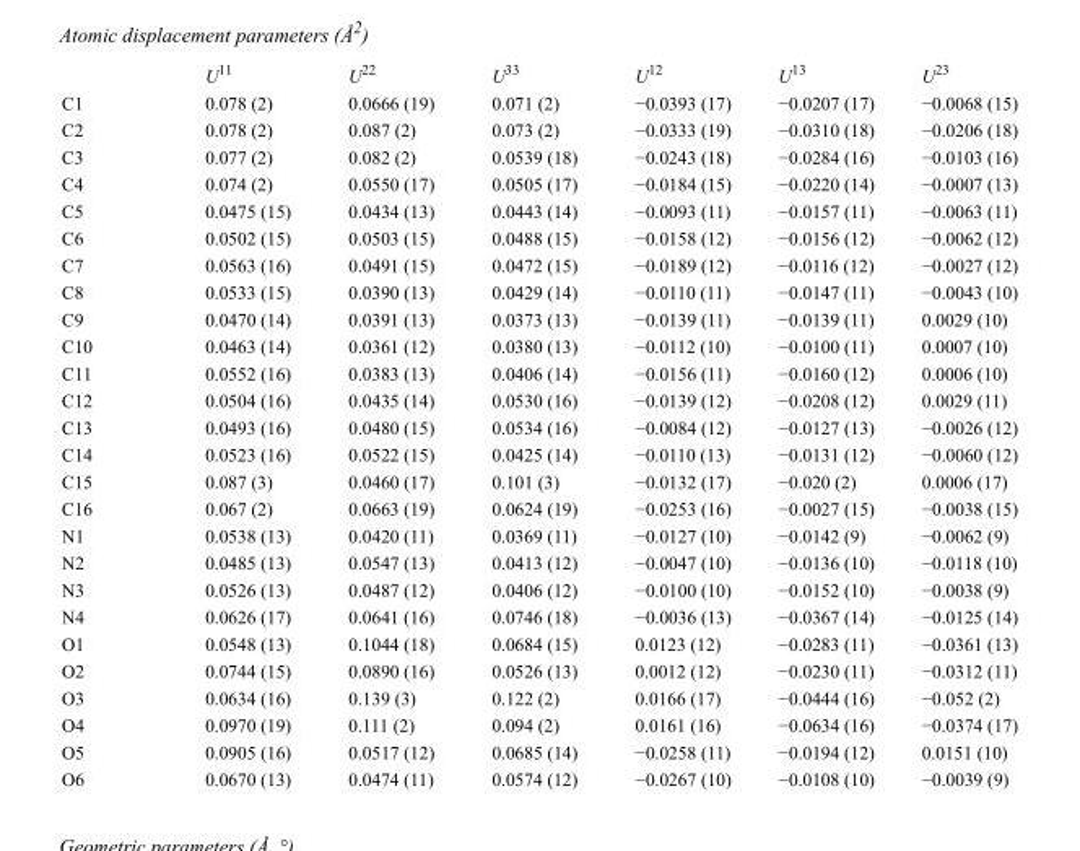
<table><thead><tr><td></td><td>U<sup>11</sup></td><td>U<sup>22</sup></td><td>U<sup>33</sup></td><td>U<sup>12</sup></td><td>U<sup>13</sup></td><td>U<sup>23</sup></td></tr></thead><tbody><tr><td>C1</td><td>0.078 (2)</td><td>0.0666 (19)</td><td>0.071 (2)</td><td>−0.0393 (17)</td><td>−0.0207 (17)</td><td>−0.0068 (15)</td></tr><tr><td>C2</td><td>0.078 (2)</td><td>0.087 (2)</td><td>0.073 (2)</td><td>−0.0333 (19)</td><td>−0.0310 (18)</td><td>−0.0206 (18)</td></tr><tr><td>C3</td><td>0.077 (2)</td><td>0.082 (2)</td><td>0.0539 (18)</td><td>−0.0243 (18)</td><td>−0.0284 (16)</td><td>−0.0103 (16)</td></tr><tr><td>C4</td><td>0.074 (2)</td><td>0.0550 (17)</td><td>0.0505 (17)</td><td>−0.0184 (15)</td><td>−0.0220 (14)</td><td>−0.0007 (13)</td></tr><tr><td>C5</td><td>0.0475 (15)</td><td>0.0434 (13)</td><td>0.0443 (14)</td><td>−0.0093 (11)</td><td>−0.0157 (11)</td><td>−0.0063 (11)</td></tr><tr><td>C6</td><td>0.0502 (15)</td><td>0.0503 (15)</td><td>0.0488 (15)</td><td>−0.0158 (12)</td><td>−0.0156 (12)</td><td>−0.0062 (12)</td></tr><tr><td>C7</td><td>0.0563 (16)</td><td>0.0491 (15)</td><td>0.0472 (15)</td><td>−0.0189 (12)</td><td>−0.0116 (12)</td><td>−0.0027 (12)</td></tr><tr><td>C8</td><td>0.0533 (15)</td><td>0.0390 (13)</td><td>0.0429 (14)</td><td>−0.0110 (11)</td><td>−0.0147 (11)</td><td>−0.0043 (10)</td></tr><tr><td>C9</td><td>0.0470 (14)</td><td>0.0391 (13)</td><td>0.0373 (13)</td><td>−0.0139 (11)</td><td>−0.0139 (11)</td><td>0.0029 (10)</td></tr><tr><td>C10</td><td>0.0463 (14)</td><td>0.0361 (12)</td><td>0.0380 (13)</td><td>−0.0112 (10)</td><td>−0.0100 (11)</td><td>0.0007 (10)</td></tr><tr><td>C11</td><td>0.0552 (16)</td><td>0.0383 (13)</td><td>0.0406 (14)</td><td>−0.0156 (11)</td><td>−0.0160 (12)</td><td>0.0006 (10)</td></tr><tr><td>C12</td><td>0.0504 (16)</td><td>0.0435 (14)</td><td>0.0530 (16)</td><td>−0.0139 (12)</td><td>−0.0208 (12)</td><td>0.0029 (11)</td></tr><tr><td>C13</td><td>0.0493 (16)</td><td>0.0480 (15)</td><td>0.0534 (16)</td><td>−0.0084 (12)</td><td>−0.0127 (13)</td><td>−0.0026 (12)</td></tr><tr><td>C14</td><td>0.0523 (16)</td><td>0.0522 (15)</td><td>0.0425 (14)</td><td>−0.0110 (13)</td><td>−0.0131 (12)</td><td>−0.0060 (12)</td></tr><tr><td>C15</td><td>0.087 (3)</td><td>0.0460 (17)</td><td>0.101 (3)</td><td>−0.0132 (17)</td><td>−0.020 (2)</td><td>0.0006 (17)</td></tr><tr><td>C16</td><td>0.067 (2)</td><td>0.0663 (19)</td><td>0.0624 (19)</td><td>−0.0253 (16)</td><td>−0.0027 (15)</td><td>−0.0038 (15)</td></tr><tr><td>N1</td><td>0.0538 (13)</td><td>0.0420 (11)</td><td>0.0369 (11)</td><td>−0.0127 (10)</td><td>−0.0142 (9)</td><td>−0.0062 (9)</td></tr><tr><td>N2</td><td>0.0485 (13)</td><td>0.0547 (13)</td><td>0.0413 (12)</td><td>−0.0047 (10)</td><td>−0.0136 (10)</td><td>−0.0118 (10)</td></tr><tr><td>N3</td><td>0.0526 (13)</td><td>0.0487 (12)</td><td>0.0406 (12)</td><td>−0.0100 (10)</td><td>−0.0152 (10)</td><td>−0.0038 (9)</td></tr><tr><td>N4</td><td>0.0626 (17)</td><td>0.0641 (16)</td><td>0.0746 (18)</td><td>−0.0036 (13)</td><td>−0.0367 (14)</td><td>−0.0125 (14)</td></tr><tr><td>O1</td><td>0.0548 (13)</td><td>0.1044 (18)</td><td>0.0684 (15)</td><td>0.0123 (12)</td><td>−0.0283 (11)</td><td>−0.0361 (13)</td></tr><tr><td>O2</td><td>0.0744 (15)</td><td>0.0890 (16)</td><td>0.0526 (13)</td><td>0.0012 (12)</td><td>−0.0230 (11)</td><td>−0.0312 (11)</td></tr><tr><td>O3</td><td>0.0634 (16)</td><td>0.139 (3)</td><td>0.122 (2)</td><td>0.0166 (17)</td><td>−0.0444 (16)</td><td>−0.052 (2)</td></tr><tr><td>O4</td><td>0.0970 (19)</td><td>0.111 (2)</td><td>0.094 (2)</td><td>0.0161 (16)</td><td>−0.0634 (16)</td><td>−0.0374 (17)</td></tr><tr><td>O5</td><td>0.0905 (16)</td><td>0.0517 (12)</td><td>0.0685 (14)</td><td>−0.0258 (11)</td><td>−0.0194 (12)</td><td>0.0151 (10)</td></tr><tr><td>O6</td><td>0.0670 (13)</td><td>0.0474 (11)</td><td>0.0574 (12)</td><td>−0.0267 (10)</td><td>−0.0108 (10)</td><td>−0.0039 (9)</td></tr></tbody></table>